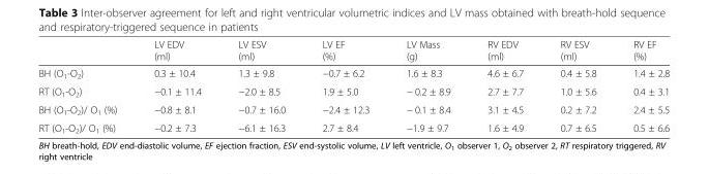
<table><thead><tr><td></td><td>LV EDV (ml)</td><td>LV ESV (ml)</td><td>LV EF (%)</td><td>LV Mass (g)</td><td>RV EDV (ml)</td><td>RV ESV (ml)</td><td>RV EF (%)</td></tr></thead><tbody><tr><td>BH (O<sub>1</sub>-O<sub>2</sub>)</td><td>0.3 ± 10.4</td><td>1.3 ± 9.8</td><td>−0.7 ± 6.2</td><td>1.6 ± 8.3</td><td>4.6 ± 6.7</td><td>0.4 ± 5.8</td><td>1.4 ± 2.8</td></tr><tr><td>RT (O<sub>1</sub>-O<sub>2</sub>)</td><td>−0.1 ± 11.4</td><td>−2.0 ± 8.5</td><td>1.9 ± 5.0</td><td>− 0.2 ± 8.9</td><td>2.7 ± 7.7</td><td>1.0 ± 5.6</td><td>0.4 ± 3.1</td></tr><tr><td>BH (O<sub>1</sub>-O<sub>2</sub>)/ O<sub>1</sub> (%)</td><td>−0.8 ± 8.1</td><td>−0.7 ± 16.0</td><td>−2.4 ± 12.3</td><td>− 0.1 ± 8.4</td><td>3.1 ± 4.5</td><td>0.2 ± 7.2</td><td>2.4 ± 5.5</td></tr><tr><td>RT (O<sub>1</sub>-O<sub>2</sub>)/ O<sub>1</sub> (%)</td><td>−0.2 ± 7.3</td><td>−6.1 ± 16.3</td><td>2.7 ± 8.4</td><td>−1.9 ± 9.7</td><td>1.6 ± 4.9</td><td>0.7 ± 6.5</td><td>0.5 ± 6.6</td></tr></tbody></table>